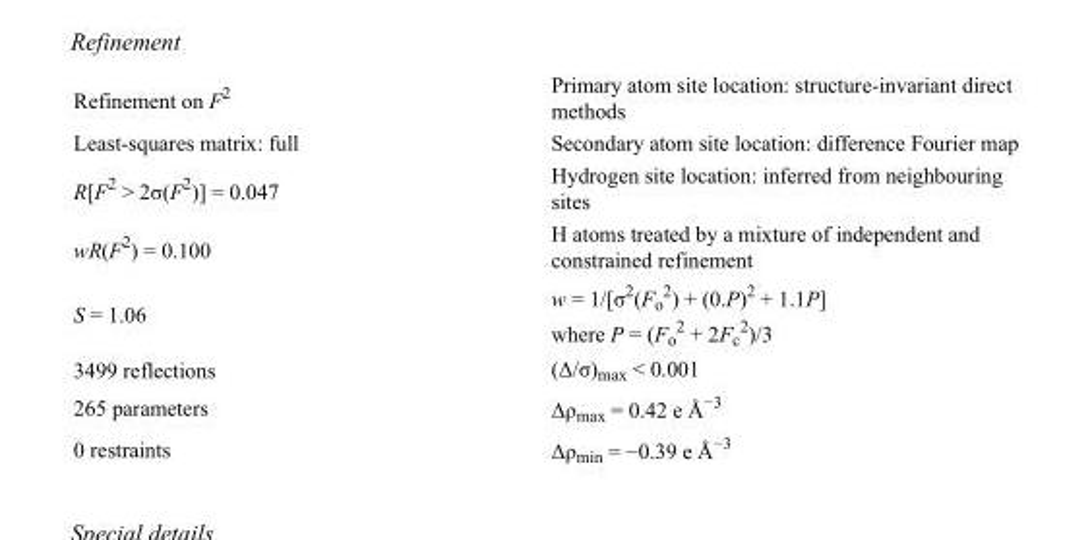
<table><tbody><tr><td>Refinement on F<sup>2</sup></td><td>Primary atom site location: structure-invariant direct methods</td></tr><tr><td>Least-squares matrix: full</td><td>Secondary atom site location: difference Fourier map</td></tr><tr><td>R[F<sup>2</sup> &gt; 2σ(F<sup>2</sup>)] = 0.047</td><td>Hydrogen site location: inferred from neighbouring sites</td></tr><tr><td>wR(F<sup>2</sup>) = 0.100</td><td>H atoms treated by a mixture of independent and constrained refinement</td></tr><tr><td>S = 1.06</td><td>w = 1/[σ<sup>2</sup>(F<sub>o</sub> <sup>2</sup>) + (0.P)<sup>2</sup> + 1.1P] where P = (F<sub>o</sub> <sup>2</sup> + 2F<sub>c</sub> <sup>2</sup>)/3</td></tr><tr><td>3499 reflections</td><td>(Δ/σ)<sub>max</sub> &lt; 0.001</td></tr><tr><td>265 parameters</td><td>Δρ<sub>max</sub> = 0.42 e Å<sup>−3</sup></td></tr><tr><td>0 restraints</td><td>Δρ<sub>min</sub> = −0.39 e Å<sup>−3</sup></td></tr></tbody></table>